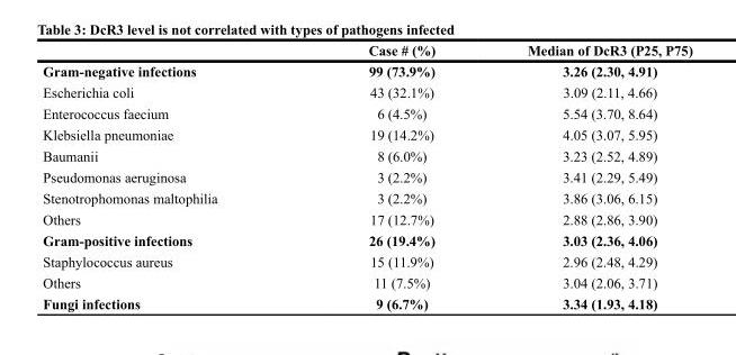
<table><thead><tr><td></td><td>Case # (%)</td><td>Median of DcR3 (P25, P75)</td></tr></thead><tbody><tr><td>Gram-negative infections</td><td>99 (73.9%)</td><td>3.26 (2.30, 4.91)</td></tr><tr><td>Escherichia coli</td><td>43 (32.1%)</td><td>3.09 (2.11, 4.66)</td></tr><tr><td>Enterococcus faecium</td><td>6 (4.5%)</td><td>5.54 (3.70, 8.64)</td></tr><tr><td>Klebsiella pneumoniae</td><td>19 (14.2%)</td><td>4.05 (3.07, 5.95)</td></tr><tr><td>Baumanii</td><td>8 (6.0%)</td><td>3.23 (2.52, 4.89)</td></tr><tr><td>Pseudomonas aeruginosa</td><td>3 (2.2%)</td><td>3.41 (2.29, 5.49)</td></tr><tr><td>Stenotrophomonas maltophilia</td><td>3 (2.2%)</td><td>3.86 (3.06, 6.15)</td></tr><tr><td>Others</td><td>17 (12.7%)</td><td>2.88 (2.86, 3.90)</td></tr><tr><td>Gram-positive infections</td><td>26 (19.4%)</td><td>3.03 (2.36, 4.06)</td></tr><tr><td>Staphylococcus aureus</td><td>15 (11.9%)</td><td>2.96 (2.48, 4.29)</td></tr><tr><td>Others</td><td>11 (7.5%)</td><td>3.04 (2.06, 3.71)</td></tr><tr><td>Fungi infections</td><td>9 (6.7%)</td><td>3.34 (1.93, 4.18)</td></tr></tbody></table>